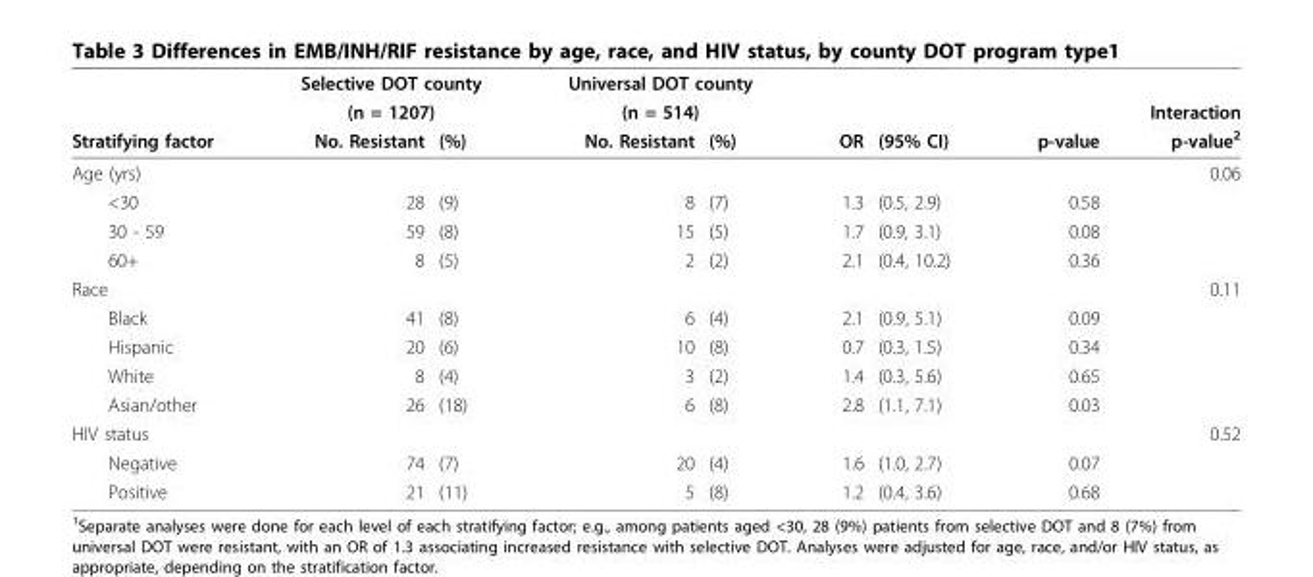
<table><thead><tr><td rowspan="3">Stratifying factor</td><td rowspan="2" colspan="2">Selective DOT county (n = 1207)</td><td rowspan="2" colspan="2">Universal DOT county (n = 514)</td><td rowspan="3">OR</td><td rowspan="3">(95% CI)</td><td rowspan="3">p-value</td><td rowspan="3">Interaction p-value<sup>2</sup></td></tr><tr></tr><tr><td>No. Resistant</td><td>(%)</td><td>No. Resistant</td><td>(%)</td></tr></thead><tbody><tr><td>Age (yrs)</td><td></td><td></td><td></td><td></td><td></td><td></td><td></td><td>0.06</td></tr><tr><td>&lt;30</td><td>28</td><td>(9)</td><td>8</td><td>(7)</td><td>1.3</td><td>(0.5, 2.9)</td><td>0.58</td><td></td></tr><tr><td>30 - 59</td><td>59</td><td>(8)</td><td>15</td><td>(5)</td><td>1.7</td><td>(0.9, 3.1)</td><td>0.08</td><td></td></tr><tr><td>60+</td><td>8</td><td>(5)</td><td>2</td><td>(2)</td><td>2.1</td><td>(0.4, 10.2)</td><td>0.36</td><td></td></tr><tr><td>Race</td><td></td><td></td><td></td><td></td><td></td><td></td><td></td><td>0.11</td></tr><tr><td>Black</td><td>41</td><td>(8)</td><td>6</td><td>(4)</td><td>2.1</td><td>(0.9, 5.1)</td><td>0.09</td><td></td></tr><tr><td>Hispanic</td><td>20</td><td>(6)</td><td>10</td><td>(8)</td><td>0.7</td><td>(0.3, 1.5)</td><td>0.34</td><td></td></tr><tr><td>White</td><td>8</td><td>(4)</td><td>3</td><td>(2)</td><td>1.4</td><td>(0.3, 5.6)</td><td>0.65</td><td></td></tr><tr><td>Asian/other</td><td>26</td><td>(18)</td><td>6</td><td>(8)</td><td>2.8</td><td>(1.1, 7.1)</td><td>0.03</td><td></td></tr><tr><td>HIV status</td><td></td><td></td><td></td><td></td><td></td><td></td><td></td><td>0.52</td></tr><tr><td>Negative</td><td>74</td><td>(7)</td><td>20</td><td>(4)</td><td>1.6</td><td>(1.0, 2.7)</td><td>0.07</td><td></td></tr><tr><td>Positive</td><td>21</td><td>(11)</td><td>5</td><td>(8)</td><td>1.2</td><td>(0.4, 3.6)</td><td>0.68</td><td></td></tr></tbody></table>